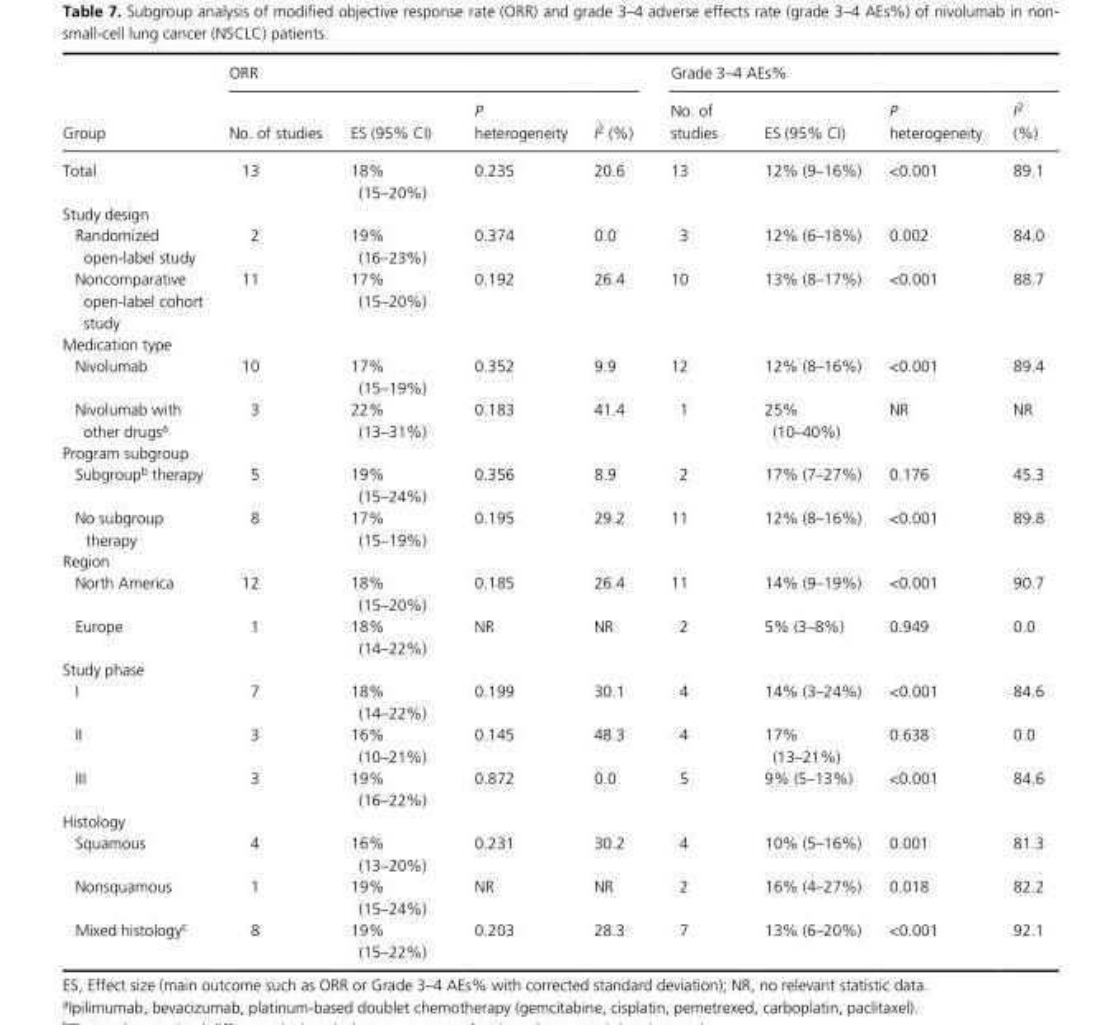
<table><thead><tr><td rowspan="2">Group</td><td colspan="4">ORR</td><td colspan="4">Grade 3–4 AEs%</td></tr><tr><td>No. of studies</td><td>ES (95% CI)</td><td>P heterogeneity</td><td>I<sup>2</sup> (%)</td><td>No. of studies</td><td>ES (95% CI)</td><td>P heterogeneity</td><td>I<sup>2</sup> (%)</td></tr></thead><tbody><tr><td>Total</td><td>13</td><td>18% (15–20%)</td><td>0.235</td><td>20.6</td><td>13</td><td>12% (9–16%)</td><td>&lt;0.001</td><td>89.1</td></tr><tr><td colspan="9">Study design</td></tr><tr><td>Randomized open- label study</td><td>2</td><td>19% (16–23%)</td><td>0.374</td><td>0.0</td><td>3</td><td>12% (6–18%)</td><td>0.002</td><td>84.0</td></tr><tr><td>Noncomparative open- label cohort study</td><td>11</td><td>17% (15–20%)</td><td>0.192</td><td>26.4</td><td>10</td><td>13% (8–17%)</td><td>&lt;0.001</td><td>88.7</td></tr><tr><td colspan="9">Medication type</td></tr><tr><td>Nivolumab</td><td>10</td><td>17% (15–19%)</td><td>0.352</td><td>9.9</td><td>12</td><td>12% (8–16%)</td><td>&lt;0.001</td><td>89.4</td></tr><tr><td>Nivolumab with other drugs<sup>a</sup></td><td>3</td><td>22% (13–31%)</td><td>0.183</td><td>41.4</td><td>1</td><td>25% (10–40%)</td><td>NR</td><td>NR</td></tr><tr><td colspan="9">Program subgroup</td></tr><tr><td>Subgroup<sup>b</sup> therapy</td><td>5</td><td>19% (15–24%)</td><td>0.356</td><td>8.9</td><td>2</td><td>17% (7–27%)</td><td>0.176</td><td>45.3</td></tr><tr><td>No subgroup therapy</td><td>8</td><td>17% (15–19%)</td><td>0.195</td><td>29.2</td><td>11</td><td>12% (8–16%)</td><td>&lt;0.001</td><td>89.8</td></tr><tr><td colspan="9">Region</td></tr><tr><td>North America</td><td>12</td><td>18% (15–20%)</td><td>0.185</td><td>26.4</td><td>11</td><td>14% (9–19%)</td><td>&lt;0.001</td><td>90.7</td></tr><tr><td>Europe</td><td>1</td><td>18% (14–22%)</td><td>NR</td><td>NR</td><td>2</td><td>5% (3–8%)</td><td>0.949</td><td>0.0</td></tr><tr><td colspan="9">Study phase</td></tr><tr><td>I</td><td>7</td><td>18% (14–22%)</td><td>0.199</td><td>30.1</td><td>4</td><td>14% (3–24%)</td><td>&lt;0.001</td><td>84.6</td></tr><tr><td>II</td><td>3</td><td>16% (10–21%)</td><td>0.145</td><td>48.3</td><td>4</td><td>17% (13–21%)</td><td>0.638</td><td>0.0</td></tr><tr><td>III</td><td>3</td><td>19% (16–22%)</td><td>0.872</td><td>0.0</td><td>5</td><td>9% (5–13%)</td><td>&lt;0.001</td><td>84.6</td></tr><tr><td colspan="9">Histology</td></tr><tr><td>Squamous</td><td>4</td><td>16% (13–20%)</td><td>0.231</td><td>30.2</td><td>4</td><td>10% (5–16%)</td><td>0.001</td><td>81.3</td></tr><tr><td>Nonsquamous</td><td>1</td><td>19% (15–24%)</td><td>NR</td><td>NR</td><td>2</td><td>16% (4–27%)</td><td>0.018</td><td>82.2</td></tr><tr><td>Mixed histology<sup>c</sup></td><td>8</td><td>19% (15–22%)</td><td>0.203</td><td>28.3</td><td>7</td><td>13% (6–20%)</td><td>&lt;0.001</td><td>92.1</td></tr></tbody></table>